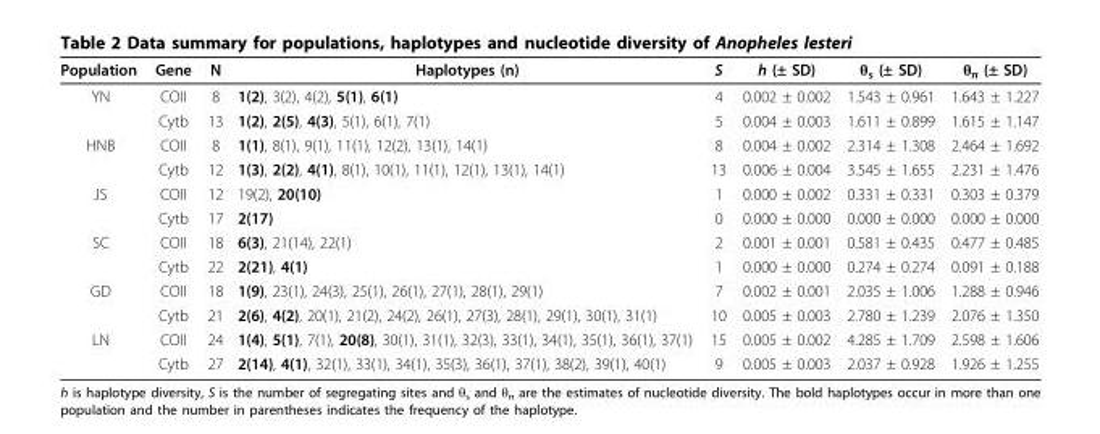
<table><thead><tr><td>Population</td><td>Gene</td><td>N</td><td>Haplotypes (n)</td><td>S</td><td>h (± SD)</td><td>θ<sub>s</sub> (± SD)</td><td>θ<sub>π</sub> (± SD)</td></tr></thead><tbody><tr><td rowspan="2">YN</td><td>COII</td><td>8</td><td>1(2), 3(2), 4(2), 5(1), 6(1)</td><td>4</td><td>0.002 ± 0.002</td><td>1.543 ± 0.961</td><td>1.643 ± 1.227</td></tr><tr><td>Cytb</td><td>13</td><td>1(2), 2(5), 4(3), 5(1), 6(1), 7(1)</td><td>5</td><td>0.004 ± 0.003</td><td>1.611 ± 0.899</td><td>1.615 ± 1.147</td></tr><tr><td rowspan="2">HNB</td><td>COII</td><td>8</td><td>1(1), 8(1), 9(1), 11(1), 12(2), 13(1), 14(1)</td><td>8</td><td>0.004 ± 0.002</td><td>2.314 ± 1.308</td><td>2.464 ± 1.692</td></tr><tr><td>Cytb</td><td>12</td><td>1(3), 2(2), 4(1), 8(1), 10(1), 11(1), 12(1), 13(1), 14(1)</td><td>13</td><td>0.006 ± 0.004</td><td>3.545 ± 1.655</td><td>2.231 ± 1.476</td></tr><tr><td rowspan="2">JS</td><td>COII</td><td>12</td><td>19(2), 20(10)</td><td>1</td><td>0.000 ± 0.002</td><td>0.331 ± 0.331</td><td>0.303 ± 0.379</td></tr><tr><td>Cytb</td><td>17</td><td>2(17)</td><td>0</td><td>0.000 ± 0.000</td><td>0.000 ± 0.000</td><td>0.000 ± 0.000</td></tr><tr><td rowspan="2">SC</td><td>COII</td><td>18</td><td>6(3), 21(14), 22(1)</td><td>2</td><td>0.001 ± 0.001</td><td>0.581 ± 0.435</td><td>0.477 ± 0.485</td></tr><tr><td>Cytb</td><td>22</td><td>2(21), 4(1)</td><td>1</td><td>0.000 ± 0.000</td><td>0.274 ± 0.274</td><td>0.091 ± 0.188</td></tr><tr><td rowspan="2">GD</td><td>COII</td><td>18</td><td>1(9), 23(1), 24(3), 25(1), 26(1), 27(1), 28(1), 29(1)</td><td>7</td><td>0.002 ± 0.001</td><td>2.035 ± 1.006</td><td>1.288 ± 0.946</td></tr><tr><td>Cytb</td><td>21</td><td>2(6), 4(2), 20(1), 21(2), 24(2), 26(1), 27(3), 28(1), 29(1), 30(1), 31(1)</td><td>10</td><td>0.005 ± 0.003</td><td>2.780 ± 1.239</td><td>2.076 ± 1.350</td></tr><tr><td rowspan="2">LN</td><td>COII</td><td>24</td><td>1(4), 5(1), 7(1), 20(8), 30(1), 31(1), 32(3), 33(1), 34(1), 35(1), 36(1), 37(1)</td><td>15</td><td>0.005 ± 0.002</td><td>4.285 ± 1.709</td><td>2.598 ± 1.606</td></tr><tr><td>Cytb</td><td>27</td><td>2(14), 4(1), 32(1), 33(1), 34(1), 35(3), 36(1), 37(1), 38(2), 39(1), 40(1)</td><td>9</td><td>0.005 ± 0.003</td><td>2.037 ± 0.928</td><td>1.926 ± 1.255</td></tr></tbody></table>